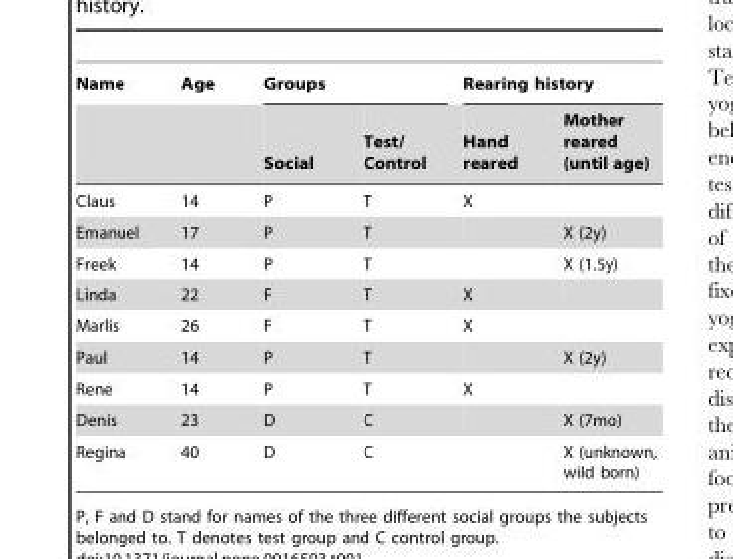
<table><thead><tr><td rowspan="2">Name</td><td rowspan="2">Age</td><td colspan="2">Groups</td><td colspan="2">Rearing history</td></tr><tr><td>Social</td><td>Test/ Control</td><td>Hand reared</td><td>Mother reared (until age)</td></tr></thead><tbody><tr><td>Claus</td><td>14</td><td>P</td><td>T</td><td>X</td><td></td></tr><tr><td>Emanuel</td><td>17</td><td>P</td><td>T</td><td></td><td>X (2y)</td></tr><tr><td>Freek</td><td>14</td><td>P</td><td>T</td><td></td><td>X (1.5y)</td></tr><tr><td>Linda</td><td>22</td><td>F</td><td>T</td><td>X</td><td></td></tr><tr><td>Marlis</td><td>26</td><td>F</td><td>T</td><td>X</td><td></td></tr><tr><td>Paul</td><td>14</td><td>P</td><td>T</td><td></td><td>X (2y)</td></tr><tr><td>Rene</td><td>14</td><td>P</td><td>T</td><td>X</td><td></td></tr><tr><td>Denis</td><td>23</td><td>D</td><td>C</td><td></td><td>X (7mo)</td></tr><tr><td>Regina</td><td>40</td><td>D</td><td>C</td><td></td><td>X (unknown, wild born)</td></tr></tbody></table>